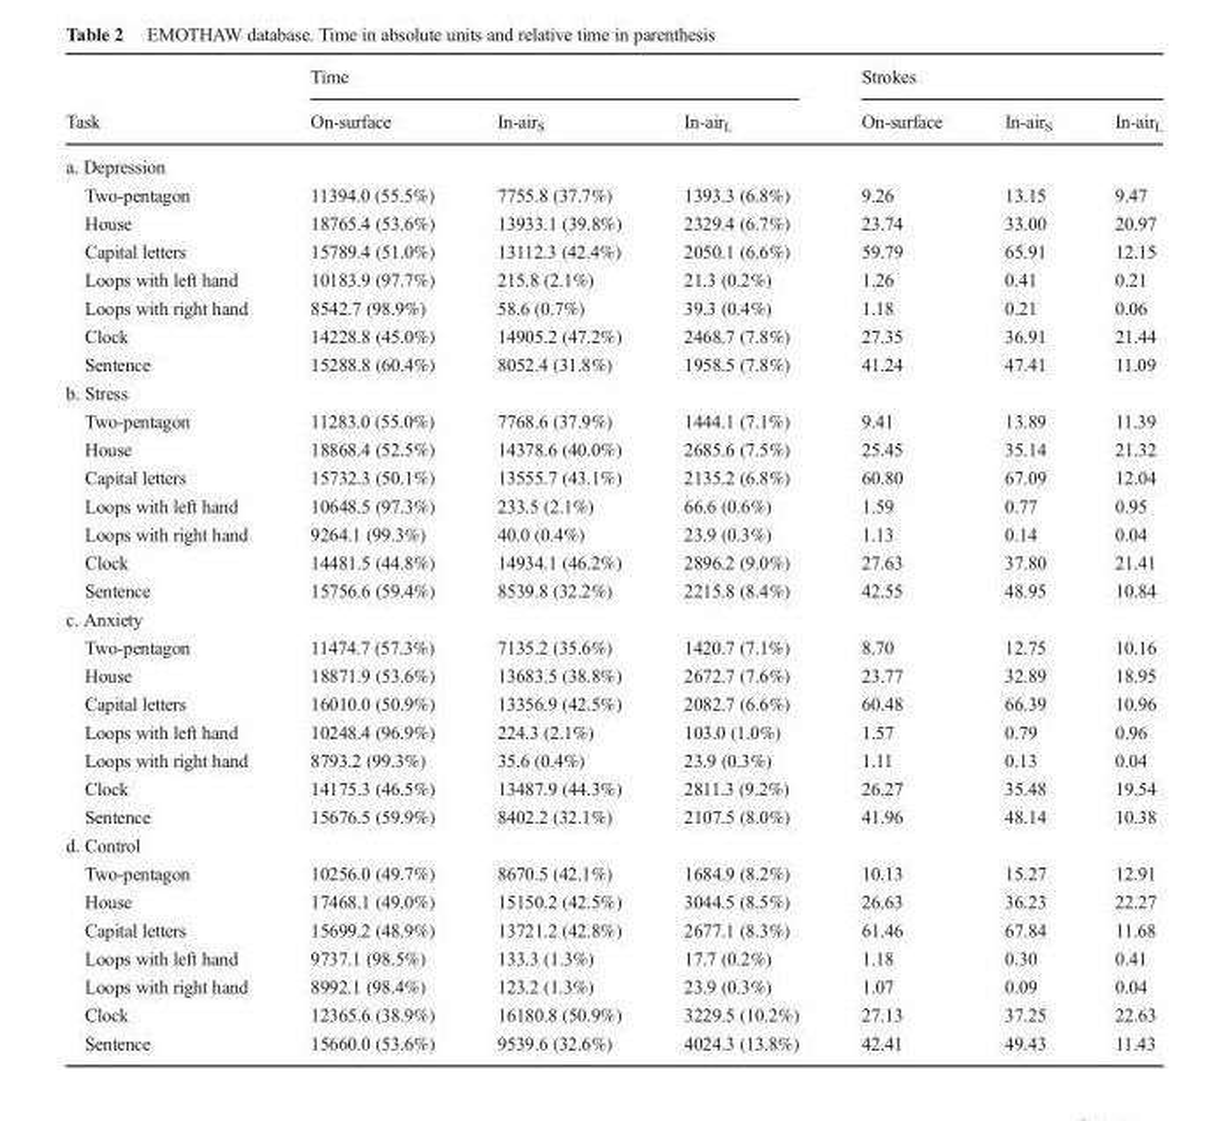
<table><thead><tr><td rowspan="2">Task</td><td colspan="3">Time</td><td colspan="3">Strokes</td></tr><tr><td>On-surface</td><td>In-air<sub>S</sub></td><td>In-air<sub>L</sub></td><td>On-surface</td><td>In-air<sub>S</sub></td><td>In-air<sub>L</sub></td></tr></thead><tbody><tr><td colspan="7">a. Depression</td></tr><tr><td>Two-pentagon</td><td>11394.0 (55.5%)</td><td>7755.8 (37.7%)</td><td>1393.3 (6.8%)</td><td>9.26</td><td>13.15</td><td>9.47</td></tr><tr><td>House</td><td>18765.4 (53.6%)</td><td>13933.1 (39.8%)</td><td>2329.4 (6.7%)</td><td>23.74</td><td>33.00</td><td>20.97</td></tr><tr><td>Capital letters</td><td>15789.4 (51.0%)</td><td>13112.3 (42.4%)</td><td>2050.1 (6.6%)</td><td>59.79</td><td>65.91</td><td>12.15</td></tr><tr><td>Loops with left hand</td><td>10183.9 (97.7%)</td><td>215.8 (2.1%)</td><td>21.3 (0.2%)</td><td>1.26</td><td>0.41</td><td>0.21</td></tr><tr><td>Loops with right hand</td><td>8542.7 (98.9%)</td><td>58.6 (0.7%)</td><td>39.3 (0.4%)</td><td>1.18</td><td>0.21</td><td>0.06</td></tr><tr><td>Clock</td><td>14228.8 (45.0%)</td><td>14905.2 (47.2%)</td><td>2468.7 (7.8%)</td><td>27.35</td><td>36.91</td><td>21.44</td></tr><tr><td>Sentence</td><td>15288.8 (60.4%)</td><td>8052.4 (31.8%)</td><td>1958.5 (7.8%)</td><td>41.24</td><td>47.41</td><td>11.09</td></tr><tr><td colspan="7">b. Stress</td></tr><tr><td>Two-pentagon</td><td>11283.0 (55.0%)</td><td>7768.6 (37.9%)</td><td>1444.1 (7.1%)</td><td>9.41</td><td>13.89</td><td>11.39</td></tr><tr><td>House</td><td>18868.4 (52.5%)</td><td>14378.6 (40.0%)</td><td>2685.6 (7.5%)</td><td>25.45</td><td>35.14</td><td>21.32</td></tr><tr><td>Capital letters</td><td>15732.3 (50.1%)</td><td>13555.7 (43.1%)</td><td>2135.2 (6.8%)</td><td>60.80</td><td>67.09</td><td>12.04</td></tr><tr><td>Loops with left hand</td><td>10648.5 (97.3%)</td><td>233.5 (2.1%)</td><td>66.6 (0.6%)</td><td>1.59</td><td>0.77</td><td>0.95</td></tr><tr><td>Loops with right hand</td><td>9264.1 (99.3%)</td><td>40.0 (0.4%)</td><td>23.9 (0.3%)</td><td>1.13</td><td>0.14</td><td>0.04</td></tr><tr><td>Clock</td><td>14481.5 (44.8%)</td><td>14934.1 (46.2%)</td><td>2896.2 (9.0%)</td><td>27.63</td><td>37.80</td><td>21.41</td></tr><tr><td>Sentence</td><td>15756.6 (59.4%)</td><td>8539.8 (32.2%)</td><td>2215.8 (8.4%)</td><td>42.55</td><td>48.95</td><td>10.84</td></tr><tr><td colspan="7">c. Anxiety</td></tr><tr><td>Two-pentagon</td><td>11474.7 (57.3%)</td><td>7135.2 (35.6%)</td><td>1420.7 (7.1%)</td><td>8.70</td><td>12.75</td><td>10.16</td></tr><tr><td>House</td><td>18871.9 (53.6%)</td><td>13683.5 (38.8%)</td><td>2672.7 (7.6%)</td><td>23.77</td><td>32.89</td><td>18.95</td></tr><tr><td>Capital letters</td><td>16010.0 (50.9%)</td><td>13356.9 (42.5%)</td><td>2082.7 (6.6%)</td><td>60.48</td><td>66.39</td><td>10.96</td></tr><tr><td>Loops with left hand</td><td>10248.4 (96.9%)</td><td>224.3 (2.1%)</td><td>103.0 (1.0%)</td><td>1.57</td><td>0.79</td><td>0.96</td></tr><tr><td>Loops with right hand</td><td>8793.2 (99.3%)</td><td>35.6 (0.4%)</td><td>23.9 (0.3%)</td><td>1.11</td><td>0.13</td><td>0.04</td></tr><tr><td>Clock</td><td>14175.3 (46.5%)</td><td>13487.9 (44.3%)</td><td>2811.3 (9.2%)</td><td>26.27</td><td>35.48</td><td>19.54</td></tr><tr><td>Sentence</td><td>15676.5 (59.9%)</td><td>8402.2 (32.1%)</td><td>2107.5 (8.0%)</td><td>41.96</td><td>48.14</td><td>10.38</td></tr><tr><td colspan="7">d. Control</td></tr><tr><td>Two-pentagon</td><td>10256.0 (49.7%)</td><td>8670.5 (42.1%)</td><td>1684.9 (8.2%)</td><td>10.13</td><td>15.27</td><td>12.91</td></tr><tr><td>House</td><td>17468.1 (49.0%)</td><td>15150.2 (42.5%)</td><td>3044.5 (8.5%)</td><td>26.63</td><td>36.23</td><td>22.27</td></tr><tr><td>Capital letters</td><td>15699.2 (48.9%)</td><td>13721.2 (42.8%)</td><td>2677.1 (8.3%)</td><td>61.46</td><td>67.84</td><td>11.68</td></tr><tr><td>Loops with left hand</td><td>9737.1 (98.5%)</td><td>133.3 (1.3%)</td><td>17.7 (0.2%)</td><td>1.18</td><td>0.30</td><td>0.41</td></tr><tr><td>Loops with right hand</td><td>8992.1 (98.4%)</td><td>123.2 (1.3%)</td><td>23.9 (0.3%)</td><td>1.07</td><td>0.09</td><td>0.04</td></tr><tr><td>Clock</td><td>12365.6 (38.9%)</td><td>16180.8 (50.9%)</td><td>3229.5 (10.2%)</td><td>27.13</td><td>37.25</td><td>22.63</td></tr><tr><td>Sentence</td><td>15660.0 (53.6%)</td><td>9539.6 (32.6%)</td><td>4024.3 (13.8%)</td><td>42.41</td><td>49.43</td><td>11.43</td></tr></tbody></table>